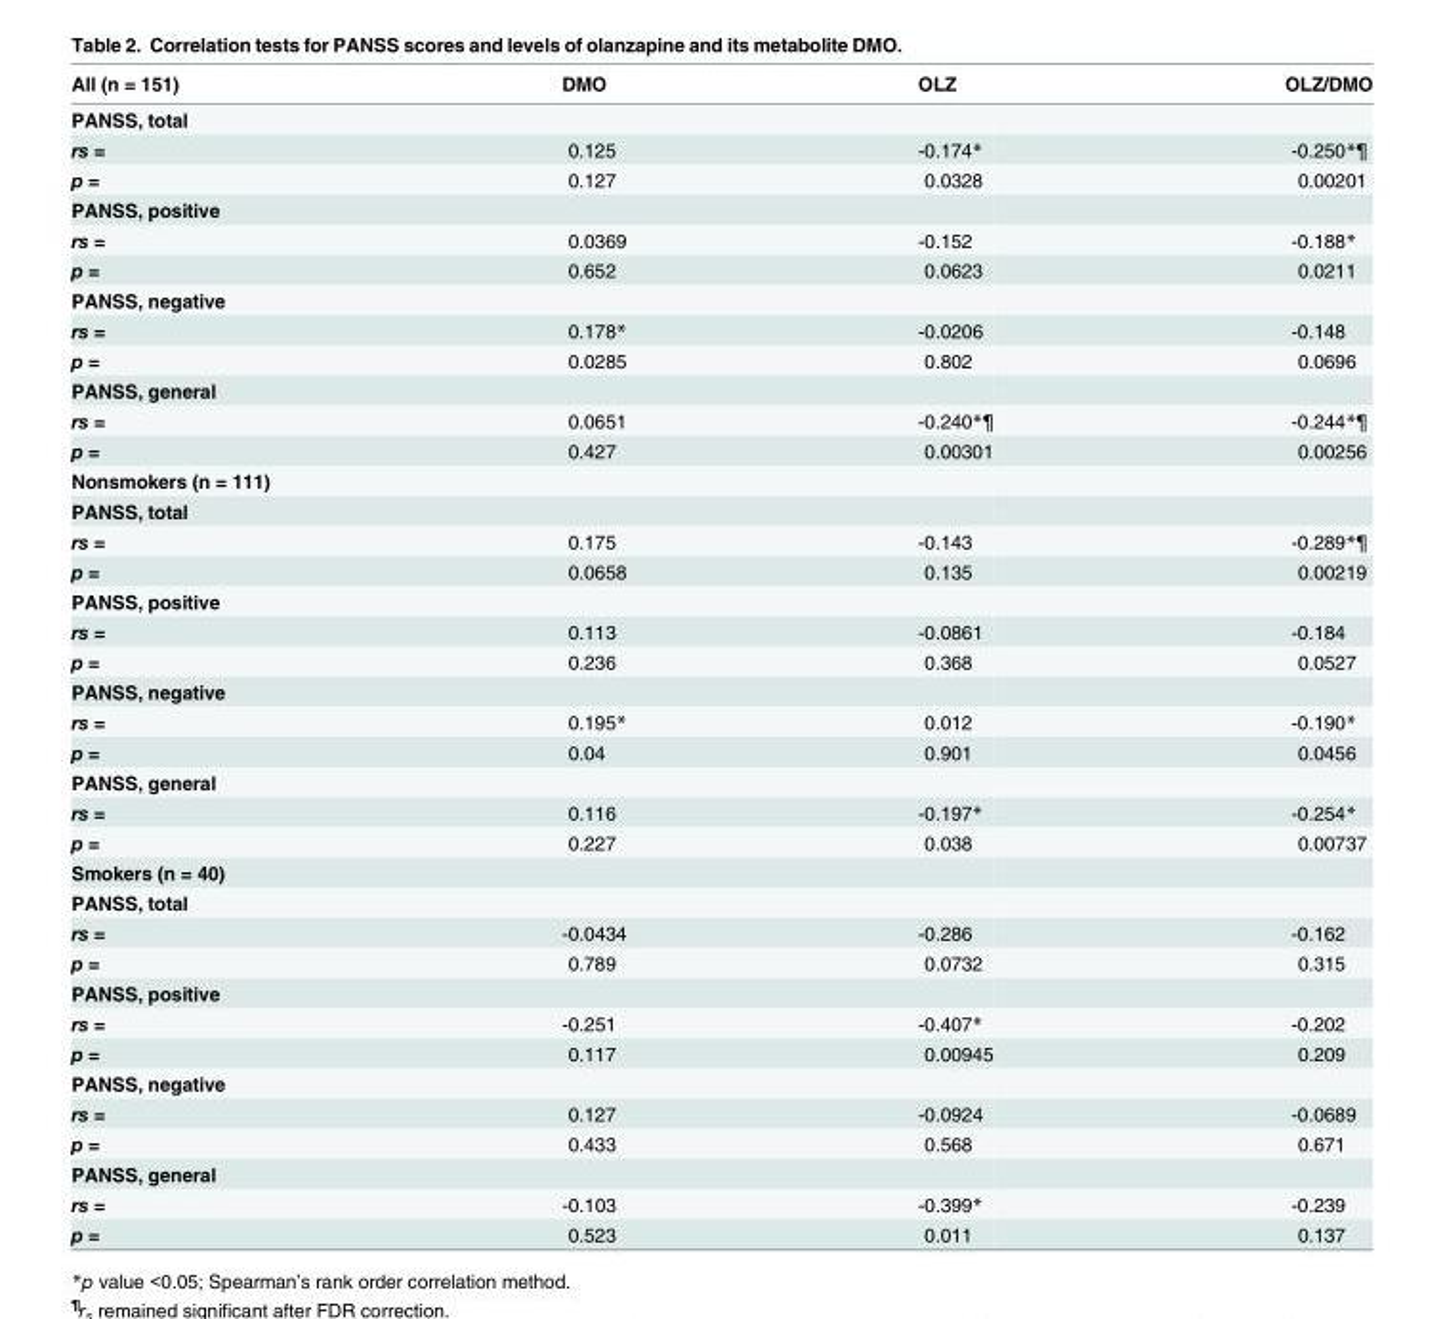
<table><thead><tr><td>All (n = 151)</td><td>DMO</td><td>OLZ</td><td>OLZ/DMO</td></tr></thead><tbody><tr><td colspan="4">PANSS, total</td></tr><tr><td>rs =</td><td>0.125</td><td>-0.174*</td><td>-0.250*¶</td></tr><tr><td>p =</td><td>0.127</td><td>0.0328</td><td>0.00201</td></tr><tr><td colspan="4">PANSS, positive</td></tr><tr><td>rs =</td><td>0.0369</td><td>-0.152</td><td>-0.188*</td></tr><tr><td>p =</td><td>0.652</td><td>0.0623</td><td>0.0211</td></tr><tr><td colspan="4">PANSS, negative</td></tr><tr><td>rs =</td><td>0.178*</td><td>-0.0206</td><td>-0.148</td></tr><tr><td>p =</td><td>0.0285</td><td>0.802</td><td>0.0696</td></tr><tr><td colspan="4">PANSS, general</td></tr><tr><td>rs =</td><td>0.0651</td><td>-0.240*¶</td><td>-0.244*¶</td></tr><tr><td>p =</td><td>0.427</td><td>0.00301</td><td>0.00256</td></tr><tr><td colspan="4">Nonsmokers (n = 111)</td></tr><tr><td colspan="4">PANSS, total</td></tr><tr><td>rs =</td><td>0.175</td><td>-0.143</td><td>-0.289*¶</td></tr><tr><td>p =</td><td>0.0658</td><td>0.135</td><td>0.00219</td></tr><tr><td colspan="4">PANSS, positive</td></tr><tr><td>rs =</td><td>0.113</td><td>-0.0861</td><td>-0.184</td></tr><tr><td>p =</td><td>0.236</td><td>0.368</td><td>0.0527</td></tr><tr><td colspan="4">PANSS, negative</td></tr><tr><td>rs =</td><td>0.195*</td><td>0.012</td><td>-0.190*</td></tr><tr><td>p =</td><td>0.04</td><td>0.901</td><td>0.0456</td></tr><tr><td colspan="4">PANSS, general</td></tr><tr><td>rs =</td><td>0.116</td><td>-0.197*</td><td>-0.254*</td></tr><tr><td>p =</td><td>0.227</td><td>0.038</td><td>0.00737</td></tr><tr><td colspan="4">Smokers (n = 40)</td></tr><tr><td colspan="4">PANSS, total</td></tr><tr><td>rs =</td><td>-0.0434</td><td>-0.286</td><td>-0.162</td></tr><tr><td>p =</td><td>0.789</td><td>0.0732</td><td>0.315</td></tr><tr><td colspan="4">PANSS, positive</td></tr><tr><td>rs =</td><td>-0.251</td><td>-0.407*</td><td>-0.202</td></tr><tr><td>p =</td><td>0.117</td><td>0.00945</td><td>0.209</td></tr><tr><td colspan="4">PANSS, negative</td></tr><tr><td>rs =</td><td>0.127</td><td>-0.0924</td><td>-0.0689</td></tr><tr><td>p =</td><td>0.433</td><td>0.568</td><td>0.671</td></tr><tr><td colspan="4">PANSS, general</td></tr><tr><td>rs =</td><td>-0.103</td><td>-0.399*</td><td>-0.239</td></tr><tr><td>p =</td><td>0.523</td><td>0.011</td><td>0.137</td></tr></tbody></table>